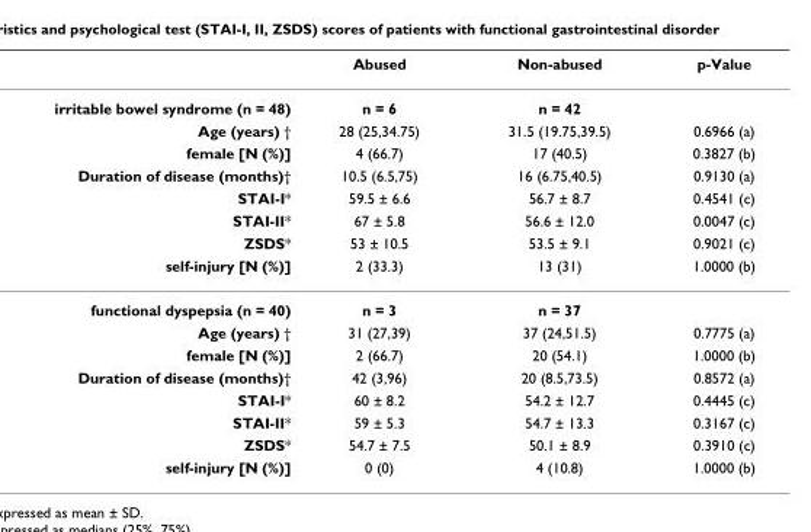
<table><thead><tr><td></td><td>Abused</td><td>Non-abused</td><td>p-Value</td></tr></thead><tbody><tr><td>irritable bowel syndrome (n = 48)</td><td>n = 6</td><td>n = 42</td><td></td></tr><tr><td>Age (years) †</td><td>28 (25,34.75)</td><td>31.5 (19.75,39.5)</td><td>0.6966 (a)</td></tr><tr><td>female [N (%)]</td><td>4 (66.7)</td><td>17 (40.5)</td><td>0.3827 (b)</td></tr><tr><td>Duration of disease (months)†</td><td>10.5 (6.5,75)</td><td>16 (6.75,40.5)</td><td>0.9130 (a)</td></tr><tr><td>STAI-I*</td><td>59.5 ± 6.6</td><td>56.7 ± 8.7</td><td>0.4541 (c)</td></tr><tr><td>STAI-II*</td><td>67 ± 5.8</td><td>56.6 ± 12.0</td><td>0.0047 (c)</td></tr><tr><td>ZSDS*</td><td>53 ± 10.5</td><td>53.5 ± 9.1</td><td>0.9021 (c)</td></tr><tr><td>self-injury [N (%)]</td><td>2 (33.3)</td><td>13 (31)</td><td>1.0000 (b)</td></tr><tr><td>functional dyspepsia (n = 40)</td><td>n = 3</td><td>n = 37</td><td></td></tr><tr><td>Age (years) †</td><td>31 (27,39)</td><td>37 (24,51.5)</td><td>0.7775 (a)</td></tr><tr><td>female [N (%)]</td><td>2 (66.7)</td><td>20 (54.1)</td><td>1.0000 (b)</td></tr><tr><td>Duration of disease (months)†</td><td>42 (3,96)</td><td>20 (8.5,73.5)</td><td>0.8572 (a)</td></tr><tr><td>STAI-I*</td><td>60 ± 8.2</td><td>54.2 ± 12.7</td><td>0.4445 (c)</td></tr><tr><td>STAI-II*</td><td>59 ± 5.3</td><td>54.7 ± 13.3</td><td>0.3167 (c)</td></tr><tr><td>ZSDS*</td><td>54.7 ± 7.5</td><td>50.1 ± 8.9</td><td>0.3910 (c)</td></tr><tr><td>self-injury [N (%)]</td><td>0 (0)</td><td>4 (10.8)</td><td>1.0000 (b)</td></tr></tbody></table>